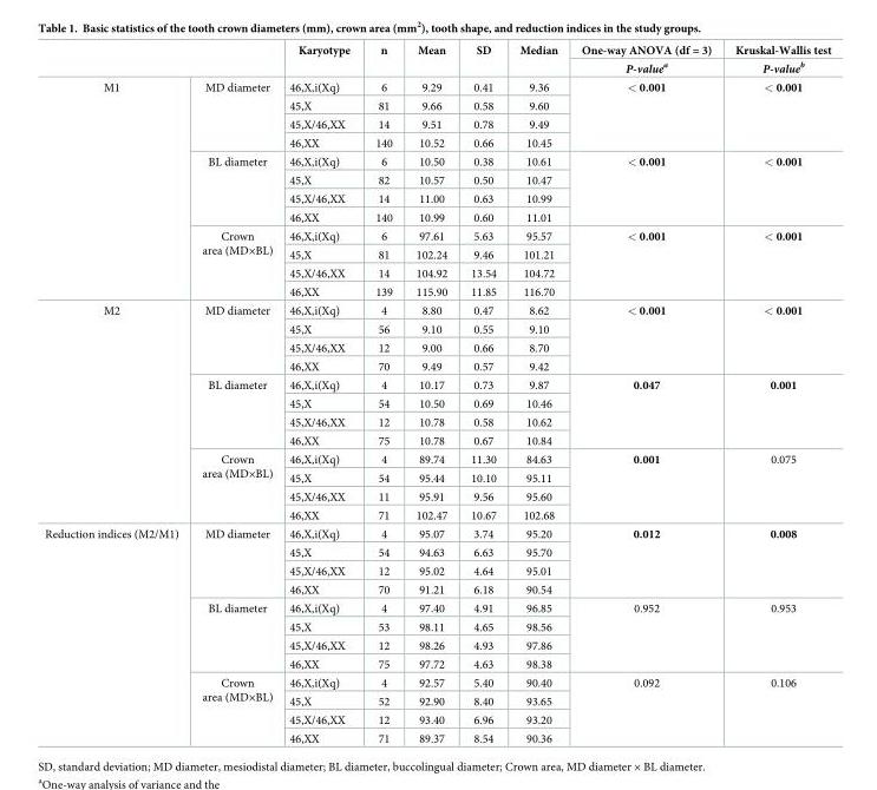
<table><thead><tr><td rowspan="2"></td><td rowspan="2"></td><td rowspan="2">Karyotype</td><td rowspan="2">n</td><td rowspan="2">Mean</td><td rowspan="2">SD</td><td rowspan="2">Median</td><td rowspan="2">One-way ANOVA (df = 3) P-value<sup>a</sup></td><td rowspan="2">Kruskal-Wallis test P-value<sup>b</sup></td></tr><tr></tr></thead><tbody><tr><td rowspan="12">M1</td><td rowspan="4">MD diameter</td><td>46,X,i(Xq)</td><td>6</td><td>9.29</td><td>0.41</td><td>9.36</td><td rowspan="4">&lt; 0.001</td><td rowspan="4">&lt; 0.001</td></tr><tr><td>45,X</td><td>81</td><td>9.66</td><td>0.58</td><td>9.60</td></tr><tr><td>45,X/46,XX</td><td>14</td><td>9.51</td><td>0.78</td><td>9.49</td></tr><tr><td>46,XX</td><td>140</td><td>10.52</td><td>0.66</td><td>10.45</td></tr><tr><td rowspan="4">BL diameter</td><td>46,X,i(Xq)</td><td>6</td><td>10.50</td><td>0.38</td><td>10.61</td><td rowspan="4">&lt; 0.001</td><td rowspan="4">&lt; 0.001</td></tr><tr><td>45,X</td><td>82</td><td>10.57</td><td>0.50</td><td>10.47</td></tr><tr><td>45,X/46,XX</td><td>14</td><td>11.00</td><td>0.63</td><td>10.99</td></tr><tr><td>46,XX</td><td>140</td><td>10.99</td><td>0.60</td><td>11.01</td></tr><tr><td rowspan="4">Crown area (MD×BL)</td><td>46,X,i(Xq)</td><td>6</td><td>97.61</td><td>5.63</td><td>95.57</td><td rowspan="4">&lt; 0.001</td><td rowspan="4">&lt; 0.001</td></tr><tr><td>45,X</td><td>81</td><td>102.24</td><td>9.46</td><td>101.21</td></tr><tr><td>45,X/46,XX</td><td>14</td><td>104.92</td><td>13.54</td><td>104.72</td></tr><tr><td>46,XX</td><td>139</td><td>115.90</td><td>11.85</td><td>116.70</td></tr><tr><td rowspan="12">M2</td><td rowspan="4">MD diameter</td><td>46,X,i(Xq)</td><td>4</td><td>8.80</td><td>0.47</td><td>8.62</td><td rowspan="4">&lt; 0.001</td><td rowspan="4">&lt; 0.001</td></tr><tr><td>45,X</td><td>56</td><td>9.10</td><td>0.55</td><td>9.10</td></tr><tr><td>45,X/46,XX</td><td>12</td><td>9.00</td><td>0.66</td><td>8.70</td></tr><tr><td>46,XX</td><td>70</td><td>9.49</td><td>0.57</td><td>9.42</td></tr><tr><td rowspan="4">BL diameter</td><td>46,X,i(Xq)</td><td>4</td><td>10.17</td><td>0.73</td><td>9.87</td><td rowspan="4">0.047</td><td rowspan="4">0.001</td></tr><tr><td>45,X</td><td>54</td><td>10.50</td><td>0.69</td><td>10.46</td></tr><tr><td>45,X/46,XX</td><td>12</td><td>10.78</td><td>0.58</td><td>10.62</td></tr><tr><td>46,XX</td><td>75</td><td>10.78</td><td>0.67</td><td>10.84</td></tr><tr><td rowspan="4">Crown area (MD×BL)</td><td>46,X,i(Xq)</td><td>4</td><td>89.74</td><td>11.30</td><td>84.63</td><td rowspan="4">0.001</td><td rowspan="4">0.075</td></tr><tr><td>45,X</td><td>54</td><td>95.44</td><td>10.10</td><td>95.11</td></tr><tr><td>45,X/46,XX</td><td>11</td><td>95.91</td><td>9.56</td><td>95.60</td></tr><tr><td>46,XX</td><td>71</td><td>102.47</td><td>10.67</td><td>102.68</td></tr><tr><td rowspan="12">Reduction indices (M2/M1)</td><td rowspan="4">MD diameter</td><td>46,X,i(Xq)</td><td>4</td><td>95.07</td><td>3.74</td><td>95.20</td><td rowspan="4">0.012</td><td rowspan="4">0.008</td></tr><tr><td>45,X</td><td>54</td><td>94.63</td><td>6.63</td><td>95.70</td></tr><tr><td>45,X/46,XX</td><td>12</td><td>95.02</td><td>4.64</td><td>95.01</td></tr><tr><td>46,XX</td><td>70</td><td>91.21</td><td>6.18</td><td>90.54</td></tr><tr><td rowspan="4">BL diameter</td><td>46,X,i(Xq)</td><td>4</td><td>97.40</td><td>4.91</td><td>96.85</td><td rowspan="4">0.952</td><td rowspan="4">0.953</td></tr><tr><td>45,X</td><td>53</td><td>98.11</td><td>4.65</td><td>98.56</td></tr><tr><td>45,X/46,XX</td><td>12</td><td>98.26</td><td>4.93</td><td>97.86</td></tr><tr><td>46,XX</td><td>75</td><td>97.72</td><td>4.63</td><td>98.38</td></tr><tr><td rowspan="4">Crown area (MD×BL)</td><td>46,X,i(Xq)</td><td>4</td><td>92.57</td><td>5.40</td><td>90.40</td><td rowspan="4">0.092</td><td rowspan="4">0.106</td></tr><tr><td>45,X</td><td>52</td><td>92.90</td><td>8.40</td><td>93.65</td></tr><tr><td>45,X/46,XX</td><td>12</td><td>93.40</td><td>6.96</td><td>93.20</td></tr><tr><td>46,XX</td><td>71</td><td>89.37</td><td>8.54</td><td>90.36</td></tr></tbody></table>